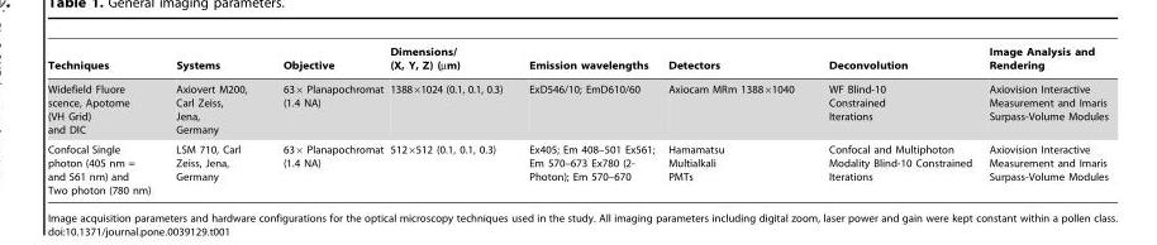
<table><thead><tr><td>Techniques</td><td>Systems</td><td>Objective</td><td>Dimensions/ (X, Y, Z) (µm)</td><td>Emission wavelengths</td><td>Detectors</td><td>Deconvolution</td><td>Image Analysis and Rendering</td></tr></thead><tbody><tr><td>Widefield Fluore scence, Apotome (VH Grid) and DIC</td><td>Axiovert M200, Carl Zeiss, Jena, Germany</td><td>63× Planapochromat (1.4 NA)</td><td>1388×1024 (0.1, 0.1, 0.3)</td><td>ExD546/10; EmD610/60</td><td>Axiocam MRm 1388×1040</td><td>WF Blind-10 Constrained Iterations</td><td>Axiovision Interactive Measurement and Imaris Surpass-Volume Modules</td></tr><tr><td>Confocal Single photon (405 nm = and 561 nm) and Two photon (780 nm)</td><td>LSM 710, Carl Zeiss, Jena, Germany</td><td>63× Planapochromat (1.4 NA)</td><td>512×512 (0.1, 0.1, 0.3)</td><td>Ex405; Em 408–501 Ex561; Em 570–673 Ex780 (2- Photon); Em 570–670</td><td>Hamamatsu Multialkali PMTs</td><td>Confocal and Multiphoton Modality Blind-10 Constrained Iterations</td><td>Axiovision Interactive Measurement and Imaris Surpass-Volume Modules</td></tr></tbody></table>